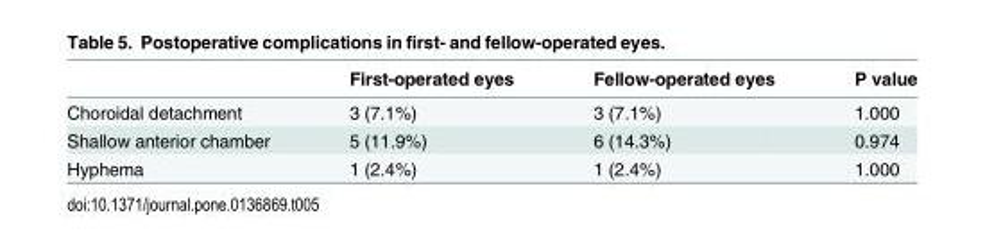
<table><thead><tr><td></td><td>First-operated eyes</td><td>Fellow-operated eyes</td><td>P value</td></tr></thead><tbody><tr><td>Choroidal detachment</td><td>3 (7.1%)</td><td>3 (7.1%)</td><td>1.000</td></tr><tr><td>Shallow anterior chamber</td><td>5 (11.9%)</td><td>6 (14.3%)</td><td>0.974</td></tr><tr><td>Hyphema</td><td>1 (2.4%)</td><td>1 (2.4%)</td><td>1.000</td></tr></tbody></table>